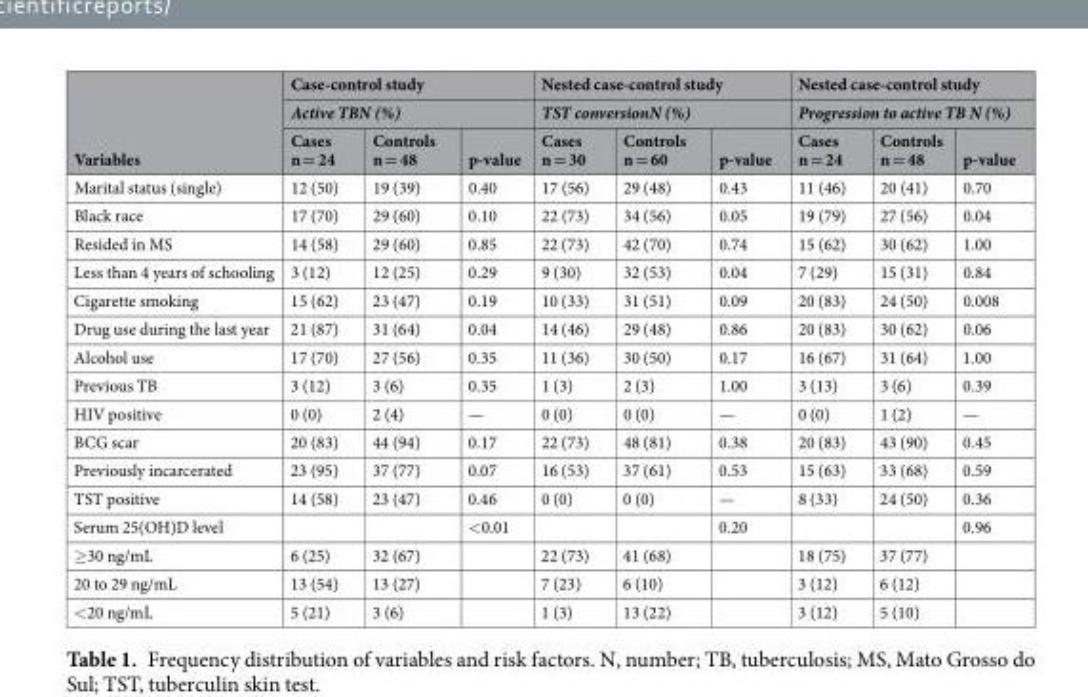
<table><thead><tr><td rowspan="3">Variables</td><td rowspan="2" colspan="3">Case-control study Active TBN (%)</td><td rowspan="2" colspan="3">Nested case-control study TST conversionN (%)</td><td rowspan="2" colspan="3">Nested case-control study Progression to active TB N (%)</td></tr><tr></tr><tr><td>Cases n = 24</td><td>Controls n = 48</td><td>p-value</td><td>Cases n = 30</td><td>Controls n = 60</td><td>p-value</td><td>Cases n = 24</td><td>Controls n = 48</td><td>p-value</td></tr></thead><tbody><tr><td>Marital status (single)</td><td>12 (50)</td><td>19 (39)</td><td>0.40</td><td>17 (56)</td><td>29 (48)</td><td>0.43</td><td>11 (46)</td><td>20 (41)</td><td>0.70</td></tr><tr><td>Black race</td><td>17 (70)</td><td>29 (60)</td><td>0.10</td><td>22 (73)</td><td>34 (56)</td><td>0.05</td><td>19 (79)</td><td>27 (56)</td><td>0.04</td></tr><tr><td>Resided in MS</td><td>14 (58)</td><td>29 (60)</td><td>0.85</td><td>22 (73)</td><td>42 (70)</td><td>0.74</td><td>15 (62)</td><td>30 (62)</td><td>1.00</td></tr><tr><td>Less than 4 years of schooling</td><td>3 (12)</td><td>12 (25)</td><td>0.29</td><td>9 (30)</td><td>32 (53)</td><td>0.04</td><td>7 (29)</td><td>15 (31)</td><td>0.84</td></tr><tr><td>Cigarette smoking</td><td>15 (62)</td><td>23 (47)</td><td>0.19</td><td>10 (33)</td><td>31 (51)</td><td>0.09</td><td>20 (83)</td><td>24 (50)</td><td>0.008</td></tr><tr><td>Drug use during the last year</td><td>21 (87)</td><td>31 (64)</td><td>0.04</td><td>14 (46)</td><td>29 (48)</td><td>0.86</td><td>20 (83)</td><td>30 (62)</td><td>0.06</td></tr><tr><td>Alcohol use</td><td>17 (70)</td><td>27 (56)</td><td>0.35</td><td>11 (36)</td><td>30 (50)</td><td>0.17</td><td>16 (67)</td><td>31 (64)</td><td>1.00</td></tr><tr><td>Previous TB</td><td>3 (12)</td><td>3 (6)</td><td>0.35</td><td>1 (3)</td><td>2 (3)</td><td>1.00</td><td>3 (13)</td><td>3 (6)</td><td>0.39</td></tr><tr><td>HIV positive</td><td>0 (0)</td><td>2 (4)</td><td>—</td><td>0 (0)</td><td>0 (0)</td><td>—</td><td>0 (0)</td><td>1 (2)</td><td>—</td></tr><tr><td>BCG scar</td><td>20 (83)</td><td>44 (94)</td><td>0.17</td><td>22 (73)</td><td>48 (81)</td><td>0.38</td><td>20 (83)</td><td>43 (90)</td><td>0.45</td></tr><tr><td>Previously incarcerated</td><td>23 (95)</td><td>37 (77)</td><td>0.07</td><td>16 (53)</td><td>37 (61)</td><td>0.53</td><td>15 (63)</td><td>33 (68)</td><td>0.59</td></tr><tr><td>TST positive</td><td>14 (58)</td><td>23 (47)</td><td>0.46</td><td>0 (0)</td><td>0 (0)</td><td>—</td><td>8 (33)</td><td>24 (50)</td><td>0.36</td></tr><tr><td>Serum 25(OH)D level</td><td></td><td></td><td>&lt;0.01</td><td></td><td></td><td>0.20</td><td></td><td></td><td>0.96</td></tr><tr><td>≥30 ng/mL</td><td>6 (25)</td><td>32 (67)</td><td></td><td>22 (73)</td><td>41 (68)</td><td></td><td>18 (75)</td><td>37 (77)</td><td></td></tr><tr><td>20 to 29 ng/mL</td><td>13 (54)</td><td>13 (27)</td><td></td><td>7 (23)</td><td>6 (10)</td><td></td><td>3 (12)</td><td>6 (12)</td><td></td></tr><tr><td>&lt;20 ng/mL</td><td>5 (21)</td><td>3 (6)</td><td></td><td>1 (3)</td><td>13 (22)</td><td></td><td>3 (12)</td><td>5 (10)</td><td></td></tr></tbody></table>